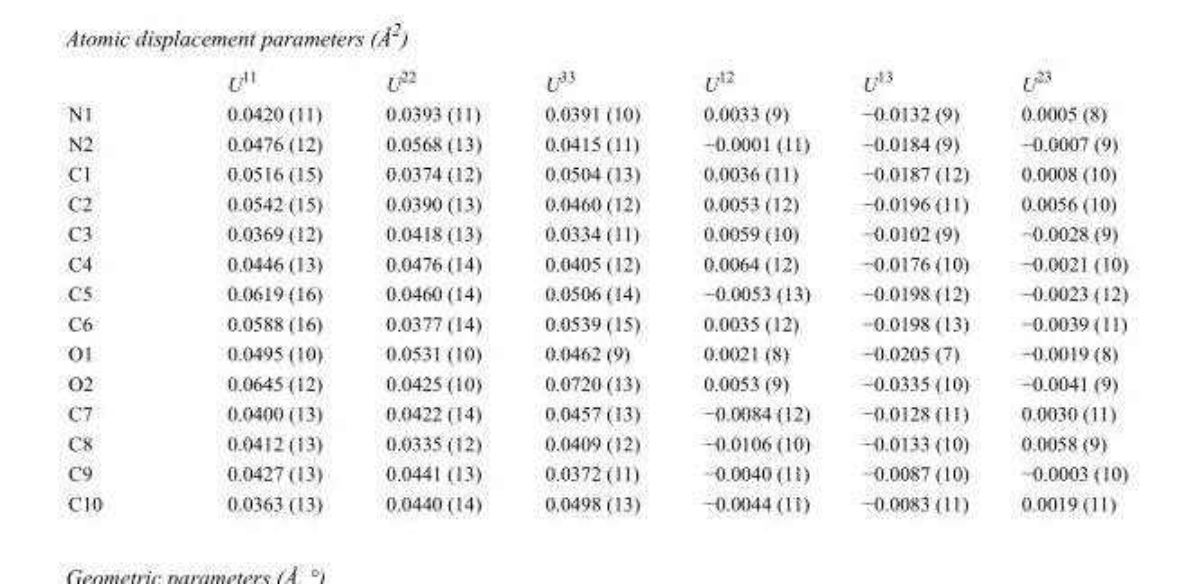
<table><thead><tr><td></td><td>U<sup>11</sup></td><td>U<sup>22</sup></td><td>U<sup>33</sup></td><td>U<sup>12</sup></td><td>U<sup>13</sup></td><td>U<sup>23</sup></td></tr></thead><tbody><tr><td>N1</td><td>0.0420 (11)</td><td>0.0393 (11)</td><td>0.0391 (10)</td><td>0.0033 (9)</td><td>−0.0132 (9)</td><td>0.0005 (8)</td></tr><tr><td>N2</td><td>0.0476 (12)</td><td>0.0568 (13)</td><td>0.0415 (11)</td><td>−0.0001 (11)</td><td>−0.0184 (9)</td><td>−0.0007 (9)</td></tr><tr><td>C1</td><td>0.0516 (15)</td><td>0.0374 (12)</td><td>0.0504 (13)</td><td>0.0036 (11)</td><td>−0.0187 (12)</td><td>0.0008 (10)</td></tr><tr><td>C2</td><td>0.0542 (15)</td><td>0.0390 (13)</td><td>0.0460 (12)</td><td>0.0053 (12)</td><td>−0.0196 (11)</td><td>0.0056 (10)</td></tr><tr><td>C3</td><td>0.0369 (12)</td><td>0.0418 (13)</td><td>0.0334 (11)</td><td>0.0059 (10)</td><td>−0.0102 (9)</td><td>−0.0028 (9)</td></tr><tr><td>C4</td><td>0.0446 (13)</td><td>0.0476 (14)</td><td>0.0405 (12)</td><td>0.0064 (12)</td><td>−0.0176 (10)</td><td>−0.0021 (10)</td></tr><tr><td>C5</td><td>0.0619 (16)</td><td>0.0460 (14)</td><td>0.0506 (14)</td><td>−0.0053 (13)</td><td>−0.0198 (12)</td><td>−0.0023 (12)</td></tr><tr><td>C6</td><td>0.0588 (16)</td><td>0.0377 (14)</td><td>0.0539 (15)</td><td>0.0035 (12)</td><td>−0.0198 (13)</td><td>−0.0039 (11)</td></tr><tr><td>O1</td><td>0.0495 (10)</td><td>0.0531 (10)</td><td>0.0462 (9)</td><td>0.0021 (8)</td><td>−0.0205 (7)</td><td>−0.0019 (8)</td></tr><tr><td>O2</td><td>0.0645 (12)</td><td>0.0425 (10)</td><td>0.0720 (13)</td><td>0.0053 (9)</td><td>−0.0335 (10)</td><td>−0.0041 (9)</td></tr><tr><td>C7</td><td>0.0400 (13)</td><td>0.0422 (14)</td><td>0.0457 (13)</td><td>−0.0084 (12)</td><td>−0.0128 (11)</td><td>0.0030 (11)</td></tr><tr><td>C8</td><td>0.0412 (13)</td><td>0.0335 (12)</td><td>0.0409 (12)</td><td>−0.0106 (10)</td><td>−0.0133 (10)</td><td>0.0058 (9)</td></tr><tr><td>C9</td><td>0.0427 (13)</td><td>0.0441 (13)</td><td>0.0372 (11)</td><td>−0.0040 (11)</td><td>−0.0087 (10)</td><td>−0.0003 (10)</td></tr><tr><td>C10</td><td>0.0363 (13)</td><td>0.0440 (14)</td><td>0.0498 (13)</td><td>−0.0044 (11)</td><td>−0.0083 (11)</td><td>0.0019 (11)</td></tr></tbody></table>